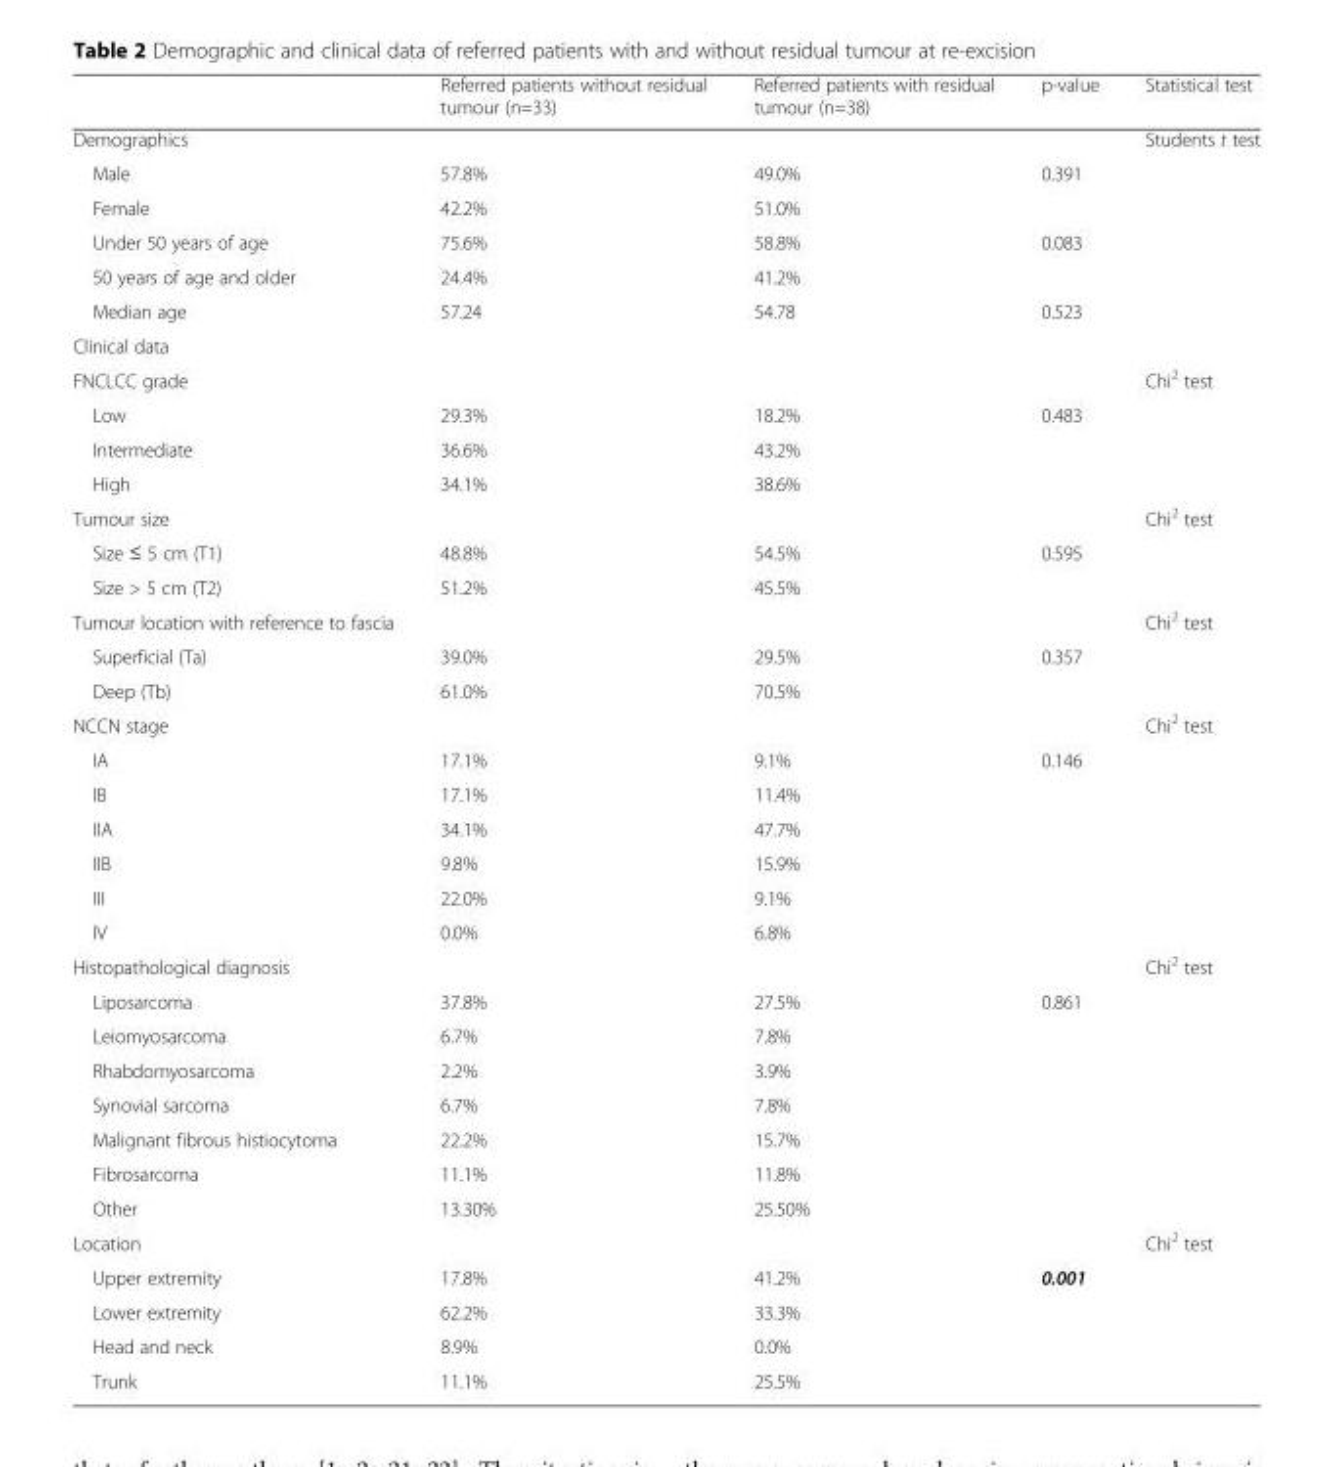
<table><thead><tr><td></td><td>Referred patients without residual tumour (n=33)</td><td>Referred patients with residual tumour (n=38)</td><td>p-value</td><td>Statistical test</td></tr></thead><tbody><tr><td colspan="4">Demographics</td><td rowspan="6">Students t test</td></tr><tr><td>Male</td><td>57.8%</td><td>49.0%</td><td rowspan="2">0.391</td></tr><tr><td>Female</td><td>42.2%</td><td>51.0%</td></tr><tr><td>Under 50 years of age</td><td>75.6%</td><td>58.8%</td><td rowspan="2">0.083</td></tr><tr><td>50 years of age and older</td><td>24.4%</td><td>41.2%</td></tr><tr><td>Median age</td><td>57.24</td><td>54.78</td><td>0.523</td></tr><tr><td colspan="5">Clinical data</td></tr><tr><td colspan="4">FNCLCC grade</td><td rowspan="4">Chi<sup>2</sup> test</td></tr><tr><td>Low</td><td>29.3%</td><td>18.2%</td><td rowspan="3">0.483</td></tr><tr><td>Intermediate</td><td>36.6%</td><td>43.2%</td></tr><tr><td>High</td><td>34.1%</td><td>38.6%</td></tr><tr><td colspan="4">Tumour size</td><td rowspan="3">Chi<sup>2</sup> test</td></tr><tr><td>Size ≤ 5 cm (T1)</td><td>48.8%</td><td>54.5%</td><td rowspan="2">0.595</td></tr><tr><td>Size &gt; 5 cm (T2)</td><td>51.2%</td><td>45.5%</td></tr><tr><td colspan="4">Tumour location with reference to fascia</td><td rowspan="3">Chi<sup>2</sup> test</td></tr><tr><td>Superficial (Ta)</td><td>39.0%</td><td>29.5%</td><td rowspan="2">0.357</td></tr><tr><td>Deep (Tb)</td><td>61.0%</td><td>70.5%</td></tr><tr><td colspan="4">NCCN stage</td><td rowspan="7">Chi<sup>2</sup> test</td></tr><tr><td>IA</td><td>17.1%</td><td>9.1%</td><td rowspan="6">0.146</td></tr><tr><td>IB</td><td>17.1%</td><td>11.4%</td></tr><tr><td>IIA</td><td>34.1%</td><td>47.7%</td></tr><tr><td>IIB</td><td>9.8%</td><td>15.9%</td></tr><tr><td>III</td><td>22.0%</td><td>9.1%</td></tr><tr><td>IV</td><td>0.0%</td><td>6.8%</td></tr><tr><td colspan="4">Histopathological diagnosis</td><td rowspan="8">Chi<sup>2</sup> test</td></tr><tr><td>Liposarcoma</td><td>37.8%</td><td>27.5%</td><td rowspan="7">0.861</td></tr><tr><td>Leiomyosarcoma</td><td>6.7%</td><td>7.8%</td></tr><tr><td>Rhabdomyosarcoma</td><td>2.2%</td><td>3.9%</td></tr><tr><td>Synovial sarcoma</td><td>6.7%</td><td>7.8%</td></tr><tr><td>Malignant fibrous histiocytoma</td><td>22.2%</td><td>15.7%</td></tr><tr><td>Fibrosarcoma</td><td>11.1%</td><td>11.8%</td></tr><tr><td>Other</td><td>13.30%</td><td>25.50%</td></tr><tr><td colspan="4">Location</td><td rowspan="5">Chi<sup>2</sup> test</td></tr><tr><td>Upper extremity</td><td>17.8%</td><td>41.2%</td><td rowspan="4">0.001</td></tr><tr><td>Lower extremity</td><td>62.2%</td><td>33.3%</td></tr><tr><td>Head and neck</td><td>8.9%</td><td>0.0%</td></tr><tr><td>Trunk</td><td>11.1%</td><td>25.5%</td></tr></tbody></table>